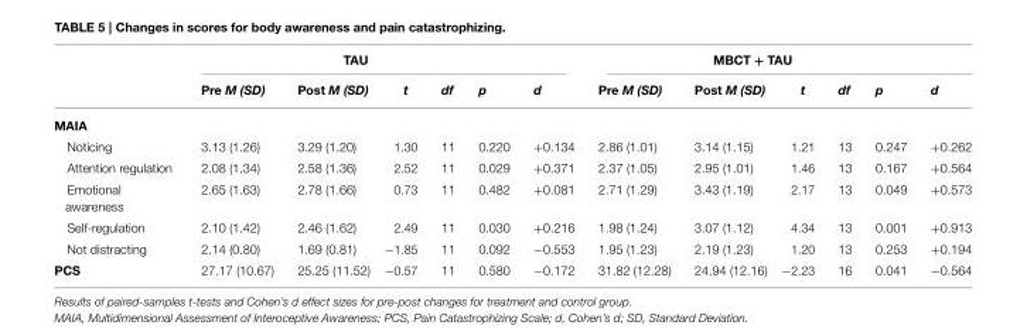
<table><thead><tr><td rowspan="2"></td><td colspan="6">TAU</td><td colspan="6">MBCT + TAU</td></tr><tr><td>Pre M (SD)</td><td>Post M (SD)</td><td>t</td><td>df</td><td>p</td><td>d</td><td>Pre M (SD)</td><td>Post M (SD)</td><td>t</td><td>df</td><td>p</td><td>d</td></tr></thead><tbody><tr><td colspan="13">MAIA</td></tr><tr><td>Noticing</td><td>3.13 (1.26)</td><td>3.29 (1.20)</td><td>1.30</td><td>11</td><td>0.220</td><td>+0.134</td><td>2.86 (1.01)</td><td>3.14 (1.15)</td><td>1.21</td><td>13</td><td>0.247</td><td>+0.262</td></tr><tr><td>Attention regulation</td><td>2.08 (1.34)</td><td>2.58 (1.36)</td><td>2.52</td><td>11</td><td>0.029</td><td>+0.371</td><td>2.37 (1.05)</td><td>2.95 (1.01)</td><td>1.46</td><td>13</td><td>0.167</td><td>+0.564</td></tr><tr><td>Emotional awareness</td><td>2.65 (1.63)</td><td>2.78 (1.66)</td><td>0.73</td><td>11</td><td>0.482</td><td>+0.081</td><td>2.71 (1.29)</td><td>3.43 (1.19)</td><td>2.17</td><td>13</td><td>0.049</td><td>+0.573</td></tr><tr><td>Self-regulation</td><td>2.10 (1.42)</td><td>2.46 (1.62)</td><td>2.49</td><td>11</td><td>0.030</td><td>+0.216</td><td>1.98 (1.24)</td><td>3.07 (1.12)</td><td>4.34</td><td>13</td><td>0.001</td><td>+0.913</td></tr><tr><td>Not distracting</td><td>2.14 (0.80)</td><td>1.69 (0.81)</td><td>−1.85</td><td>11</td><td>0.092</td><td>−0.553</td><td>1.95 (1.23)</td><td>2.19 (1.23)</td><td>1.20</td><td>13</td><td>0.253</td><td>+0.194</td></tr><tr><td>PCS</td><td>27.17 (10.67)</td><td>25.25 (11.52)</td><td>−0.57</td><td>11</td><td>0.580</td><td>−0.172</td><td>31.82 (12.28)</td><td>24.94 (12.16)</td><td>−2.23</td><td>16</td><td>0.041</td><td>−0.564</td></tr></tbody></table>